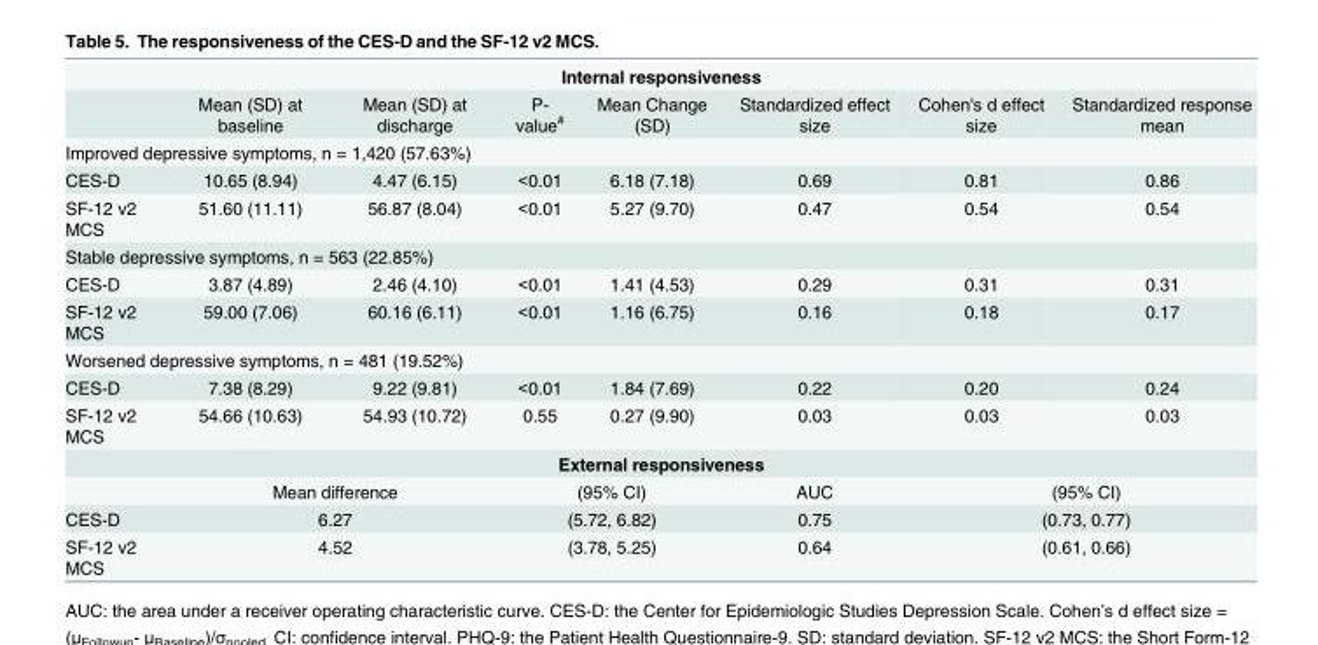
<table><tbody><tr><td colspan="8">Internal responsiveness</td></tr><tr><td></td><td>Mean (SD) at baseline</td><td>Mean (SD) at discharge</td><td>P- value<sup>#</sup></td><td>Mean Change (SD)</td><td>Standardized effect size</td><td>Cohen&#x27;s d effect size</td><td>Standardized response mean</td></tr><tr><td colspan="8">Improved depressive symptoms, n = 1,420 (57.63%)</td></tr><tr><td>CES-D</td><td>10.65 (8.94)</td><td>4.47 (6.15)</td><td>&lt;0.01</td><td>6.18 (7.18)</td><td>0.69</td><td>0.81</td><td>0.86</td></tr><tr><td>SF-12 v2 MCS</td><td>51.60 (11.11)</td><td>56.87 (8.04)</td><td>&lt;0.01</td><td>5.27 (9.70)</td><td>0.47</td><td>0.54</td><td>0.54</td></tr><tr><td colspan="8">Stable depressive symptoms, n = 563 (22.85%)</td></tr><tr><td>CES-D</td><td>3.87 (4.89)</td><td>2.46 (4.10)</td><td>&lt;0.01</td><td>1.41 (4.53)</td><td>0.29</td><td>0.31</td><td>0.31</td></tr><tr><td>SF-12 v2 MCS</td><td>59.00 (7.06)</td><td>60.16 (6.11)</td><td>&lt;0.01</td><td>1.16 (6.75)</td><td>0.16</td><td>0.18</td><td>0.17</td></tr><tr><td colspan="8">Worsened depressive symptoms, n = 481 (19.52%)</td></tr><tr><td>CES-D</td><td>7.38 (8.29)</td><td>9.22 (9.81)</td><td>&lt;0.01</td><td>1.84 (7.69)</td><td>0.22</td><td>0.20</td><td>0.24</td></tr><tr><td>SF-12 v2 MCS</td><td>54.66 (10.63)</td><td>54.93 (10.72)</td><td>0.55</td><td>0.27 (9.90)</td><td>0.03</td><td>0.03</td><td>0.03</td></tr><tr><td colspan="8">External responsiveness</td></tr><tr><td></td><td colspan="2">Mean difference</td><td colspan="2">(95% CI)</td><td>AUC</td><td colspan="2">(95% CI)</td></tr><tr><td>CES-D</td><td colspan="2">6.27</td><td colspan="2">(5.72, 6.82)</td><td>0.75</td><td colspan="2">(0.73, 0.77)</td></tr><tr><td>SF-12 v2 MCS</td><td colspan="2">4.52</td><td colspan="2">(3.78, 5.25)</td><td>0.64</td><td colspan="2">(0.61, 0.66)</td></tr></tbody></table>